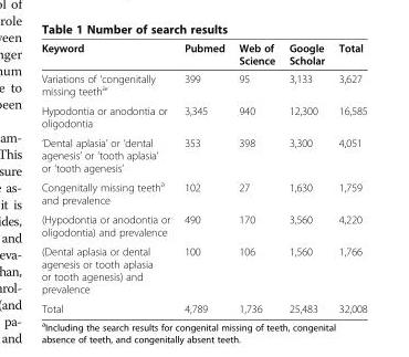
<table><thead><tr><td>Keyword</td><td>Pubmed</td><td>Web of Science</td><td>Google Scholar</td><td>Total</td></tr></thead><tbody><tr><td>Variations of ‘congenitally missing teeth<sup>a</sup>’</td><td>399</td><td>95</td><td>3,133</td><td>3,627</td></tr><tr><td>Hypodontia or anodontia or oligodontia</td><td>3,345</td><td>940</td><td>12,300</td><td>16,585</td></tr><tr><td>‘Dental aplasia’ or ‘dental agenesis’ or ’tooth aplasia’ or ‘tooth agenesis’</td><td>353</td><td>398</td><td>3,300</td><td>4,051</td></tr><tr><td>Congenitally missing teeth<sup>a</sup> and prevalence</td><td>102</td><td>27</td><td>1,630</td><td>1,759</td></tr><tr><td>(Hypodontia or anodontia or oligodontia) and prevalence</td><td>490</td><td>170</td><td>3,560</td><td>4,220</td></tr><tr><td>(Dental aplasia or dental agenesis or tooth aplasia or tooth agenesis) and prevalence</td><td>100</td><td>106</td><td>1,560</td><td>1,766</td></tr><tr><td>Total</td><td>4,789</td><td>1,736</td><td>25,483</td><td>32,008</td></tr></tbody></table>